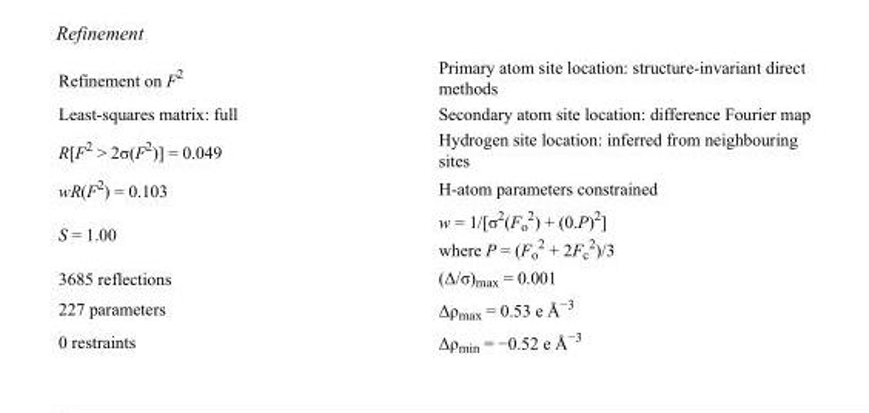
<table><tbody><tr><td>Refinement on F<sup>2</sup></td><td>Primary atom site location: structure-invariant direct methods</td></tr><tr><td>Least-squares matrix: full</td><td>Secondary atom site location: difference Fourier map</td></tr><tr><td>R[F<sup>2</sup> &gt; 2σ(F<sup>2</sup>)] = 0.049</td><td>Hydrogen site location: inferred from neighbouring sites</td></tr><tr><td>wR(F<sup>2</sup>) = 0.103</td><td>H-atom parameters constrained</td></tr><tr><td>S = 1.00</td><td>w = 1/[σ<sup>2</sup>(F<sub>o</sub> <sup>2</sup>) + (0.P)<sup>2</sup>] where P = (F<sub>o</sub> <sup>2</sup> + 2F<sub>c</sub> <sup>2</sup>)/3</td></tr><tr><td>3685 reflections</td><td>(Δ/σ)<sub>max</sub> = 0.001</td></tr><tr><td>227 parameters</td><td>Δρ<sub>max</sub> = 0.53 e Å<sup>−3</sup></td></tr><tr><td>0 restraints</td><td>Δρ<sub>min</sub> = −0.52 e Å<sup>−3</sup></td></tr></tbody></table>